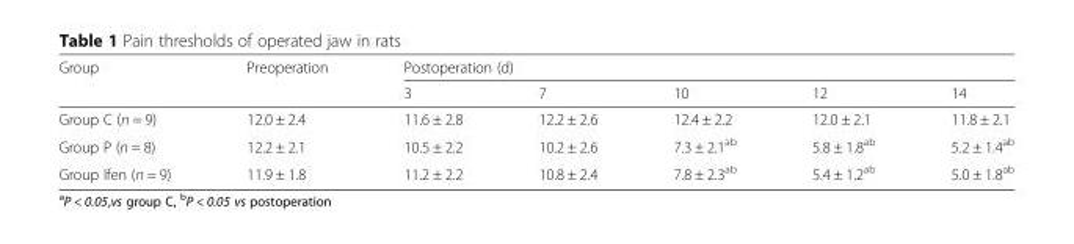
<table><thead><tr><td rowspan="2">Group</td><td rowspan="2">Preoperation</td><td colspan="5">Postoperation (d)</td></tr><tr><td>3</td><td>7</td><td>10</td><td>12</td><td>14</td></tr></thead><tbody><tr><td>Group C (n = 9)</td><td>12.0 ± 2.4</td><td>11.6 ± 2.8</td><td>12.2 ± 2.6</td><td>12.4 ± 2.2</td><td>12.0 ± 2.1</td><td>11.8 ± 2.1</td></tr><tr><td>Group P (n = 8)</td><td>12.2 ± 2.1</td><td>10.5 ± 2.2</td><td>10.2 ± 2.6</td><td>7.3 ± 2.1<sup>ab</sup></td><td>5.8 ± 1.8<sup>ab</sup></td><td>5.2 ± 1.4<sup>ab</sup></td></tr><tr><td>Group Ifen (n = 9)</td><td>11.9 ± 1.8</td><td>11.2 ± 2.2</td><td>10.8 ± 2.4</td><td>7.8 ± 2.3<sup>ab</sup></td><td>5.4 ± 1.2<sup>ab</sup></td><td>5.0 ± 1.8<sup>ab</sup></td></tr></tbody></table>